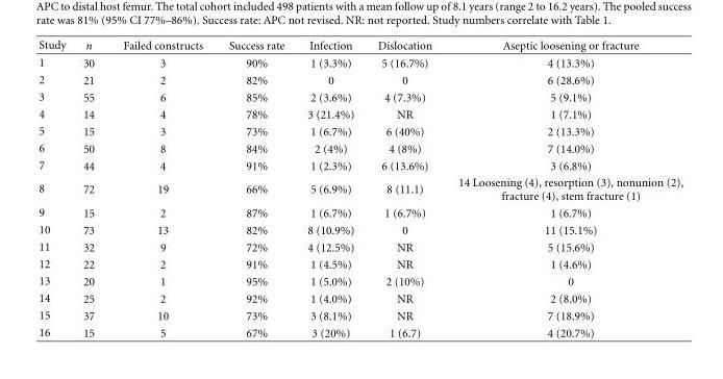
<table><thead><tr><td>Study</td><td>n</td><td>Failed constructs</td><td>Success rate</td><td>Infection</td><td>Dislocation</td><td>Aseptic loosening or fracture</td></tr></thead><tbody><tr><td>1</td><td>30</td><td>3</td><td>90%</td><td>1 (3.3%)</td><td>5 (16.7%)</td><td>4 (13.3%)</td></tr><tr><td>2</td><td>21</td><td>2</td><td>82%</td><td>0</td><td>0</td><td>6 (28.6%)</td></tr><tr><td>3</td><td>55</td><td>6</td><td>85%</td><td>2 (3.6%)</td><td>4 (7.3%)</td><td>5 (9.1%)</td></tr><tr><td>4</td><td>14</td><td>4</td><td>78%</td><td>3 (21.4%)</td><td>NR</td><td>1 (7.1%)</td></tr><tr><td>5</td><td>15</td><td>3</td><td>73%</td><td>1 (6.7%)</td><td>6 (40%)</td><td>2 (13.3%)</td></tr><tr><td>6</td><td>50</td><td>8</td><td>84%</td><td>2 (4%)</td><td>4 (8%)</td><td>7 (14.0%)</td></tr><tr><td>7</td><td>44</td><td>4</td><td>91%</td><td>1 (2.3%)</td><td>6 (13.6%)</td><td>3 (6.8%)</td></tr><tr><td>8</td><td>72</td><td>19</td><td>66%</td><td>5 (6.9%)</td><td>8 (11.1)</td><td>14 Loosening (4), resorption (3), nonunion (2), fracture (4), stem fracture (1)</td></tr><tr><td>9</td><td>15</td><td>2</td><td>87%</td><td>1 (6.7%)</td><td>1 (6.7%)</td><td>1 (6.7%)</td></tr><tr><td>10</td><td>73</td><td>13</td><td>82%</td><td>8 (10.9%)</td><td>0</td><td>11 (15.1%)</td></tr><tr><td>11</td><td>32</td><td>9</td><td>72%</td><td>4 (12.5%)</td><td>NR</td><td>5 (15.6%)</td></tr><tr><td>12</td><td>22</td><td>2</td><td>91%</td><td>1 (4.5%)</td><td>NR</td><td>1 (4.6%)</td></tr><tr><td>13</td><td>20</td><td>1</td><td>95%</td><td>1 (5.0%)</td><td>2 (10%)</td><td>0</td></tr><tr><td>14</td><td>25</td><td>2</td><td>92%</td><td>1 (4.0%)</td><td>NR</td><td>2 (8.0%)</td></tr><tr><td>15</td><td>37</td><td>10</td><td>73%</td><td>3 (8.1%)</td><td>NR</td><td>7 (18.9%)</td></tr><tr><td>16</td><td>15</td><td>5</td><td>67%</td><td>3 (20%)</td><td>1 (6.7)</td><td>4 (20.7%)</td></tr></tbody></table>